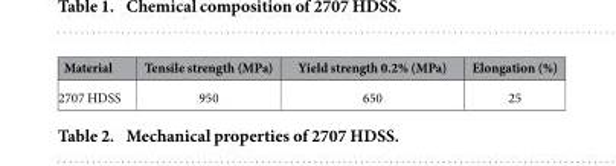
<table><thead><tr><td>Material</td><td>Tensile strength (MPa)</td><td>Yield strength 0.2% (MPa)</td><td>Elongation (%)</td></tr></thead><tbody><tr><td>2707 HDSS</td><td>950</td><td>650</td><td>25</td></tr></tbody></table>